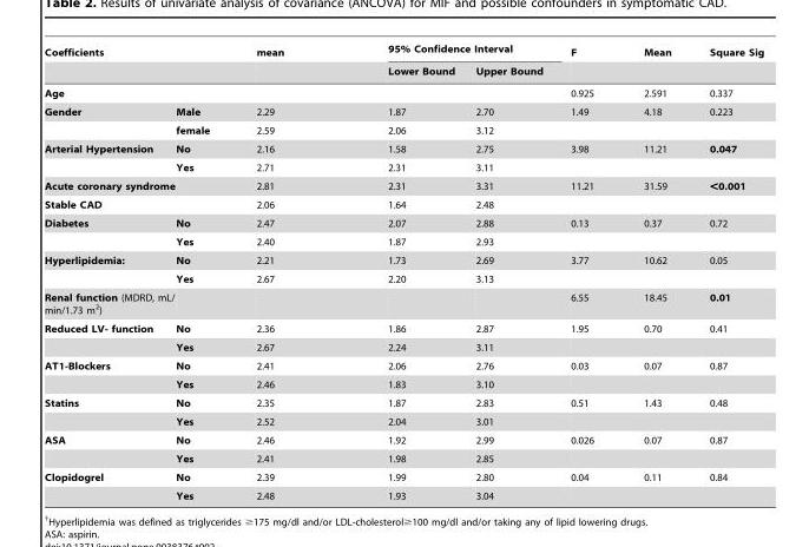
<table><thead><tr><td colspan="2">Coefficients</td><td rowspan="2">mean</td><td colspan="2">95% Confidence Interval</td><td rowspan="2">F</td><td rowspan="2">Mean</td><td rowspan="2">Square Sig</td></tr><tr><td></td><td></td><td>Lower Bound</td><td>Upper Bound</td></tr></thead><tbody><tr><td colspan="5">Age</td><td>0.925</td><td>2.591</td><td>0.337</td></tr><tr><td rowspan="2">Gender</td><td>Male</td><td>2.29</td><td>1.87</td><td>2.70</td><td>1.49</td><td>4.18</td><td>0.223</td></tr><tr><td>female</td><td>2.59</td><td>2.06</td><td>3.12</td><td></td><td></td><td></td></tr><tr><td rowspan="2">Arterial Hypertension</td><td>No</td><td>2.16</td><td>1.58</td><td>2.75</td><td>3.98</td><td>11.21</td><td>0.047</td></tr><tr><td>Yes</td><td>2.71</td><td>2.31</td><td>3.11</td><td></td><td></td><td></td></tr><tr><td>Acute coronary syndrome</td><td></td><td>2.81</td><td>2.31</td><td>3.31</td><td>11.21</td><td>31.59</td><td>&lt;0.001</td></tr><tr><td>Stable CAD</td><td></td><td>2.06</td><td>1.64</td><td>2.48</td><td></td><td></td><td></td></tr><tr><td rowspan="2">Diabetes</td><td>No</td><td>2.47</td><td>2.07</td><td>2.88</td><td>0.13</td><td>0.37</td><td>0.72</td></tr><tr><td>Yes</td><td>2.40</td><td>1.87</td><td>2.93</td><td></td><td></td><td></td></tr><tr><td rowspan="2">Hyperlipidemia:</td><td>No</td><td>2.21</td><td>1.73</td><td>2.69</td><td>3.77</td><td>10.62</td><td>0.05</td></tr><tr><td>Yes</td><td>2.67</td><td>2.20</td><td>3.13</td><td></td><td></td><td></td></tr><tr><td>Renal function (MDRD, mL/ min/1.73 m<sup>2</sup>)</td><td></td><td></td><td></td><td></td><td>6.55</td><td>18.45</td><td>0.01</td></tr><tr><td rowspan="2">Reduced LV- function</td><td>No</td><td>2.36</td><td>1.86</td><td>2.87</td><td>1.95</td><td>0.70</td><td>0.41</td></tr><tr><td>Yes</td><td>2.67</td><td>2.24</td><td>3.11</td><td></td><td></td><td></td></tr><tr><td rowspan="2">AT1-Blockers</td><td>No</td><td>2.41</td><td>2.06</td><td>2.76</td><td>0.03</td><td>0.07</td><td>0.87</td></tr><tr><td>Yes</td><td>2.46</td><td>1.83</td><td>3.10</td><td></td><td></td><td></td></tr><tr><td rowspan="2">Statins</td><td>No</td><td>2.35</td><td>1.87</td><td>2.83</td><td>0.51</td><td>1.43</td><td>0.48</td></tr><tr><td>Yes</td><td>2.52</td><td>2.04</td><td>3.01</td><td></td><td></td><td></td></tr><tr><td rowspan="2">ASA</td><td>No</td><td>2.46</td><td>1.92</td><td>2.99</td><td>0.026</td><td>0.07</td><td>0.87</td></tr><tr><td>Yes</td><td>2.41</td><td>1.98</td><td>2.85</td><td></td><td></td><td></td></tr><tr><td rowspan="2">Clopidogrel</td><td>No</td><td>2.39</td><td>1.99</td><td>2.80</td><td>0.04</td><td>0.11</td><td>0.84</td></tr><tr><td>Yes</td><td>2.48</td><td>1.93</td><td>3.04</td><td></td><td></td><td></td></tr></tbody></table>